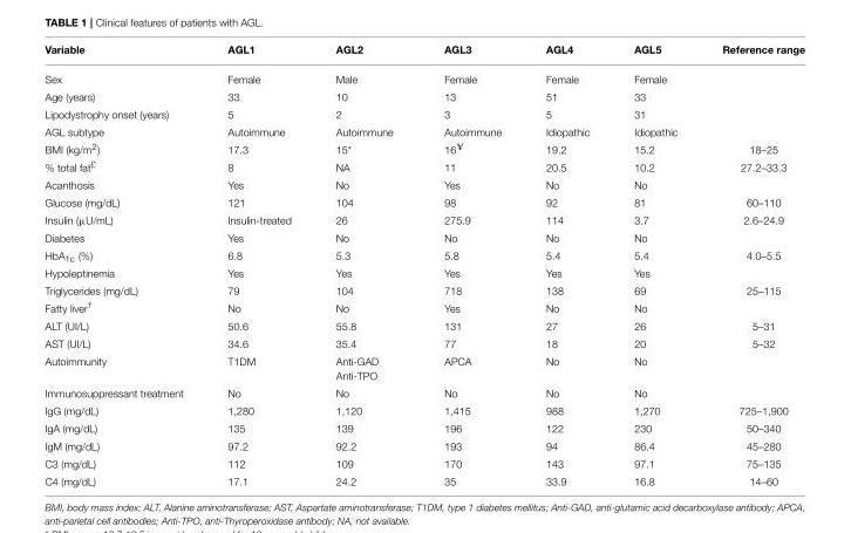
<table><thead><tr><td>Variable</td><td>AGL1</td><td>AGL2</td><td>AGL3</td><td>AGL4</td><td>AGL5</td><td>Reference range</td></tr></thead><tbody><tr><td>Sex</td><td>Female</td><td>Male</td><td>Female</td><td>Female</td><td>Female</td><td></td></tr><tr><td>Age (years)</td><td>33</td><td>10</td><td>13</td><td>51</td><td>33</td><td></td></tr><tr><td>Lipodystrophy onset (years)</td><td>5</td><td>2</td><td>3</td><td>5</td><td>31</td><td></td></tr><tr><td>AGL subtype</td><td>Autoimmune</td><td>Autoimmune</td><td>Autoimmune</td><td>Idiopathic</td><td>Idiopathic</td><td></td></tr><tr><td>BMI (kg/m<sup>2</sup>)</td><td>17.3</td><td>15*</td><td>16<sup>¥</sup></td><td>19.2</td><td>15.2</td><td>18–25</td></tr><tr><td>% total fat<sup>£</sup></td><td>8</td><td>NA</td><td>11</td><td>20.5</td><td>10.2</td><td>27.2–33.3</td></tr><tr><td>Acanthosis</td><td>Yes</td><td>No</td><td>Yes</td><td>No</td><td>No</td><td></td></tr><tr><td>Glucose (mg/dL)</td><td>121</td><td>104</td><td>98</td><td>92</td><td>81</td><td>60–110</td></tr><tr><td>Insulin (µU/mL)</td><td>Insulin-treated</td><td>26</td><td>275.9</td><td>114</td><td>3.7</td><td>2.6–24.9</td></tr><tr><td>Diabetes</td><td>Yes</td><td>No</td><td>No</td><td>No</td><td>No</td><td></td></tr><tr><td>HbA<sub>1c</sub> (%)</td><td>6.8</td><td>5.3</td><td>5.8</td><td>5.4</td><td>5.4</td><td>4.0–5.5</td></tr><tr><td>Hypoleptinemia</td><td>Yes</td><td>Yes</td><td>Yes</td><td>Yes</td><td>Yes</td><td></td></tr><tr><td>Triglycerides (mg/dL)</td><td>79</td><td>104</td><td>718</td><td>138</td><td>69</td><td>25–115</td></tr><tr><td>Fatty liver<sup>†</sup></td><td>No</td><td>No</td><td>Yes</td><td>No</td><td>No</td><td></td></tr><tr><td>ALT (UI/L)</td><td>50.6</td><td>55.8</td><td>131</td><td>27</td><td>26</td><td>5–31</td></tr><tr><td>AST (UI/L)</td><td>34.6</td><td>35.4</td><td>77</td><td>18</td><td>20</td><td>5–32</td></tr><tr><td>Autoimmunity</td><td>T1DM</td><td>Anti-GAD Anti-TPO</td><td>APCA</td><td>No</td><td>No</td><td></td></tr><tr><td>Immunosuppressant treatment</td><td>No</td><td>No</td><td>No</td><td>No</td><td>No</td><td></td></tr><tr><td>IgG (mg/dL)</td><td>1,280</td><td>1,120</td><td>1,415</td><td>988</td><td>1,270</td><td>725–1,900</td></tr><tr><td>IgA (mg/dL)</td><td>135</td><td>139</td><td>196</td><td>122</td><td>230</td><td>50–340</td></tr><tr><td>IgM (mg/dL)</td><td>97.2</td><td>92.2</td><td>193</td><td>94</td><td>86.4</td><td>45–280</td></tr><tr><td>C3 (mg/dL)</td><td>112</td><td>109</td><td>170</td><td>143</td><td>97.1</td><td>75–135</td></tr><tr><td>C4 (mg/dL)</td><td>17.1</td><td>24.2</td><td>35</td><td>33.9</td><td>16.8</td><td>14–60</td></tr></tbody></table>